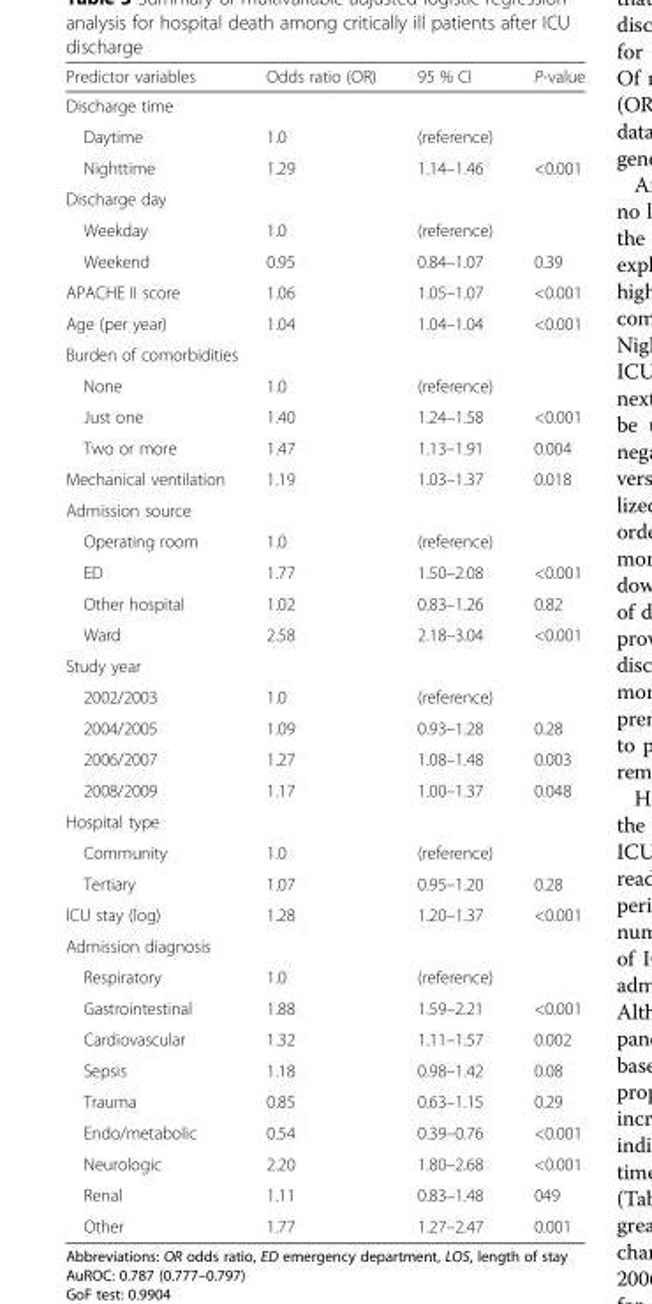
<table><thead><tr><td>Predictor variables</td><td>Odds ratio (OR)</td><td>95 % CI</td><td>P-value</td></tr></thead><tbody><tr><td colspan="4">Discharge time</td></tr><tr><td>Daytime</td><td>1.0</td><td>(reference)</td><td></td></tr><tr><td>Nighttime</td><td>1.29</td><td>1.14–1.46</td><td>&lt;0.001</td></tr><tr><td colspan="4">Discharge day</td></tr><tr><td>Weekday</td><td>1.0</td><td>(reference)</td><td></td></tr><tr><td>Weekend</td><td>0.95</td><td>0.84–1.07</td><td>0.39</td></tr><tr><td>APACHE II score</td><td>1.06</td><td>1.05–1.07</td><td>&lt;0.001</td></tr><tr><td>Age (per year)</td><td>1.04</td><td>1.04–1.04</td><td>&lt;0.001</td></tr><tr><td colspan="4">Burden of comorbidities</td></tr><tr><td>None</td><td>1.0</td><td>(reference)</td><td></td></tr><tr><td>Just one</td><td>1.40</td><td>1.24–1.58</td><td>&lt;0.001</td></tr><tr><td>Two or more</td><td>1.47</td><td>1.13–1.91</td><td>0.004</td></tr><tr><td>Mechanical ventilation</td><td>1.19</td><td>1.03–1.37</td><td>0.018</td></tr><tr><td colspan="4">Admission source</td></tr><tr><td>Operating room</td><td>1.0</td><td>(reference)</td><td></td></tr><tr><td>ED</td><td>1.77</td><td>1.50–2.08</td><td>&lt;0.001</td></tr><tr><td>Other hospital</td><td>1.02</td><td>0.83–1.26</td><td>0.82</td></tr><tr><td>Ward</td><td>2.58</td><td>2.18–3.04</td><td>&lt;0.001</td></tr><tr><td colspan="4">Study year</td></tr><tr><td>2002/2003</td><td>1.0</td><td>(reference)</td><td></td></tr><tr><td>2004/2005</td><td>1.09</td><td>0.93–1.28</td><td>0.28</td></tr><tr><td>2006/2007</td><td>1.27</td><td>1.08–1.48</td><td>0.003</td></tr><tr><td>2008/2009</td><td>1.17</td><td>1.00–1.37</td><td>0.048</td></tr><tr><td colspan="4">Hospital type</td></tr><tr><td>Community</td><td>1.0</td><td>(reference)</td><td></td></tr><tr><td>Tertiary</td><td>1.07</td><td>0.95–1.20</td><td>0.28</td></tr><tr><td>ICU stay (log)</td><td>1.28</td><td>1.20–1.37</td><td>&lt;0.001</td></tr><tr><td colspan="4">Admission diagnosis</td></tr><tr><td>Respiratory</td><td>1.0</td><td>(reference)</td><td></td></tr><tr><td>Gastrointestinal</td><td>1.88</td><td>1.59–2.21</td><td>&lt;0.001</td></tr><tr><td>Cardiovascular</td><td>1.32</td><td>1.11–1.57</td><td>0.002</td></tr><tr><td>Sepsis</td><td>1.18</td><td>0.98–1.42</td><td>0.08</td></tr><tr><td>Trauma</td><td>0.85</td><td>0.63–1.15</td><td>0.29</td></tr><tr><td>Endo/metabolic</td><td>0.54</td><td>0.39–0.76</td><td>&lt;0.001</td></tr><tr><td>Neurologic</td><td>2.20</td><td>1.80–2.68</td><td>&lt;0.001</td></tr><tr><td>Renal</td><td>1.11</td><td>0.83–1.48</td><td>049</td></tr><tr><td>Other</td><td>1.77</td><td>1.27–2.47</td><td>0.001</td></tr></tbody></table>